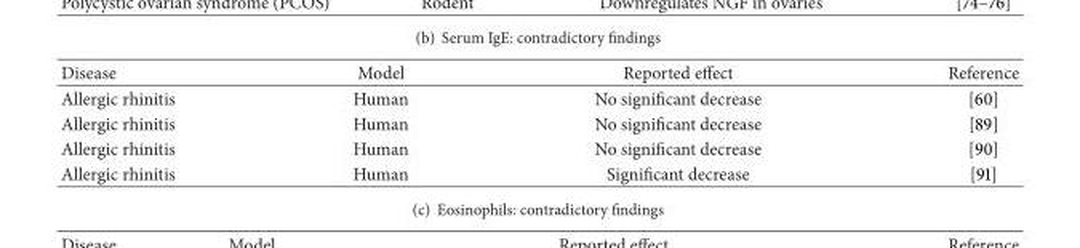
<table><thead><tr><td>Disease</td><td>Model</td><td>Reported effect</td><td>Reference</td></tr></thead><tbody><tr><td>Allergic rhinitis</td><td>Human</td><td>No significant decrease</td><td>[60]</td></tr><tr><td>Allergic rhinitis</td><td>Human</td><td>No significant decrease</td><td>[89]</td></tr><tr><td>Allergic rhinitis</td><td>Human</td><td>No significant decrease</td><td>[90]</td></tr><tr><td>Allergic rhinitis</td><td>Human</td><td>Significant decrease</td><td>[91]</td></tr></tbody></table>